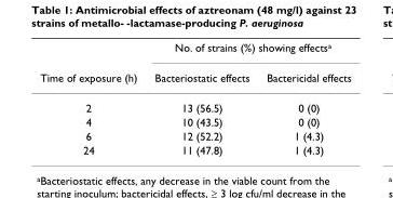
<table><thead><tr><td rowspan="2">Time of exposure (h)</td><td colspan="2">No. of strains (%) showing effects<sup>a</sup></td></tr><tr><td>Bacteriostatic effects</td><td>Bactericidal effects</td></tr></thead><tbody><tr><td>2</td><td>13 (56.5)</td><td>0 (0)</td></tr><tr><td>4</td><td>10 (43.5)</td><td>0 (0)</td></tr><tr><td>6</td><td>12 (52.2)</td><td>1 (4.3)</td></tr><tr><td>24</td><td>11 (47.8)</td><td>1 (4.3)</td></tr></tbody></table>